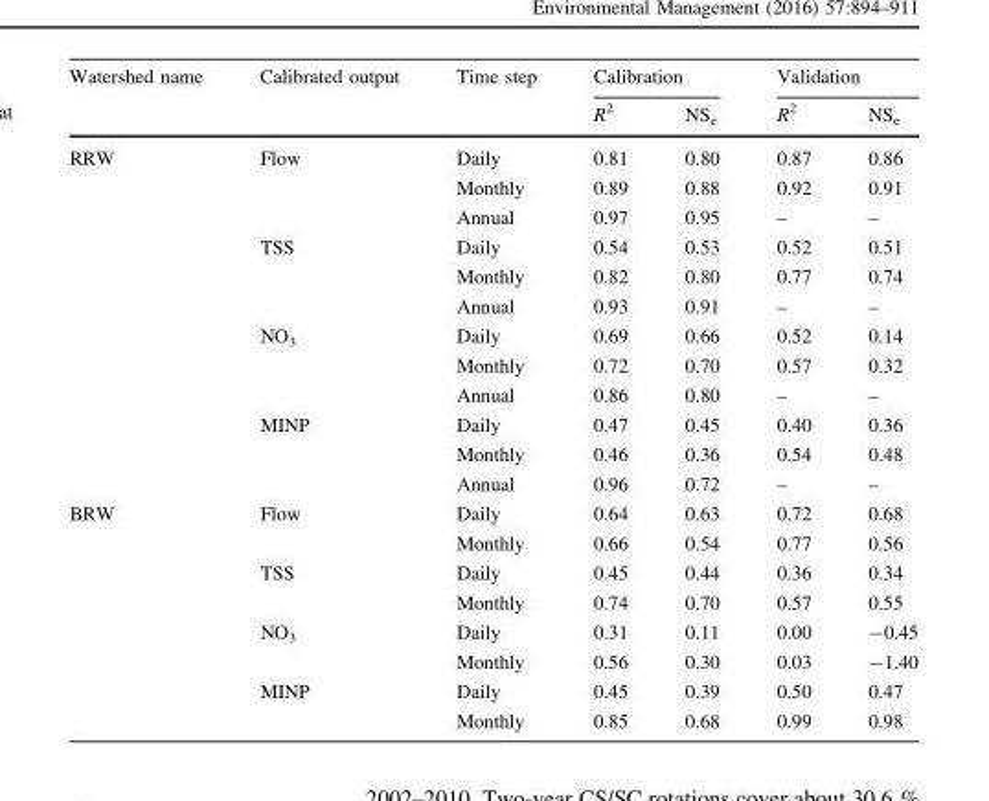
<table><thead><tr><td rowspan="2">Watershed name</td><td rowspan="2">Calibrated output</td><td rowspan="2">Time step</td><td colspan="2">Calibration</td><td colspan="2">Validation</td></tr><tr><td>R<sup>2</sup></td><td>NS<sub>e</sub></td><td>R<sup>2</sup></td><td>NS<sub>e</sub></td></tr></thead><tbody><tr><td rowspan="12">RRW</td><td rowspan="3">Flow</td><td>Daily</td><td>0.81</td><td>0.80</td><td>0.87</td><td>0.86</td></tr><tr><td>Monthly</td><td>0.89</td><td>0.88</td><td>0.92</td><td>0.91</td></tr><tr><td>Annual</td><td>0.97</td><td>0.95</td><td>–</td><td>–</td></tr><tr><td rowspan="3">TSS</td><td>Daily</td><td>0.54</td><td>0.53</td><td>0.52</td><td>0.51</td></tr><tr><td>Monthly</td><td>0.82</td><td>0.80</td><td>0.77</td><td>0.74</td></tr><tr><td>Annual</td><td>0.93</td><td>0.91</td><td>–</td><td>–</td></tr><tr><td rowspan="3">NO<sub>3</sub></td><td>Daily</td><td>0.69</td><td>0.66</td><td>0.52</td><td>0.14</td></tr><tr><td>Monthly</td><td>0.72</td><td>0.70</td><td>0.57</td><td>0.32</td></tr><tr><td>Annual</td><td>0.86</td><td>0.80</td><td>–</td><td>–</td></tr><tr><td rowspan="3">MINP</td><td>Daily</td><td>0.47</td><td>0.45</td><td>0.40</td><td>0.36</td></tr><tr><td>Monthly</td><td>0.46</td><td>0.36</td><td>0.54</td><td>0.48</td></tr><tr><td>Annual</td><td>0.96</td><td>0.72</td><td>–</td><td>–</td></tr><tr><td rowspan="8">BRW</td><td rowspan="2">Flow</td><td>Daily</td><td>0.64</td><td>0.63</td><td>0.72</td><td>0.68</td></tr><tr><td>Monthly</td><td>0.66</td><td>0.54</td><td>0.77</td><td>0.56</td></tr><tr><td rowspan="2">TSS</td><td>Daily</td><td>0.45</td><td>0.44</td><td>0.36</td><td>0.34</td></tr><tr><td>Monthly</td><td>0.74</td><td>0.70</td><td>0.57</td><td>0.55</td></tr><tr><td rowspan="2">NO<sub>3</sub></td><td>Daily</td><td>0.31</td><td>0.11</td><td>0.00</td><td>-0.45</td></tr><tr><td>Monthly</td><td>0.56</td><td>0.30</td><td>0.03</td><td>-1.40</td></tr><tr><td rowspan="2">MINP</td><td>Daily</td><td>0.45</td><td>0.39</td><td>0.50</td><td>0.47</td></tr><tr><td>Monthly</td><td>0.85</td><td>0.68</td><td>0.99</td><td>0.98</td></tr></tbody></table>